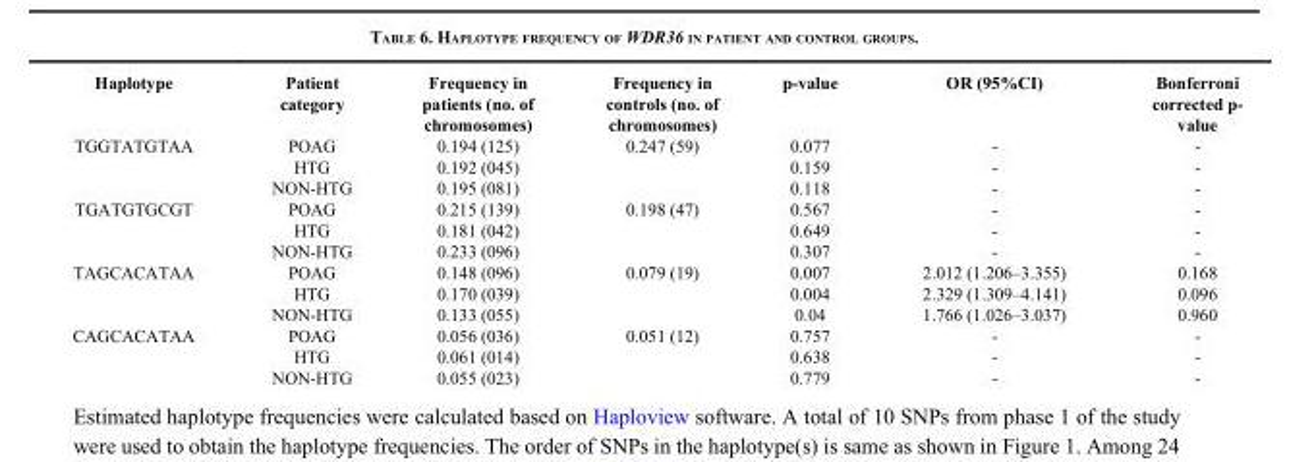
<table><thead><tr><td>Haplotype</td><td>Patient category</td><td>Frequency in patients (no. of chromosomes)</td><td>Frequency in controls (no. of chromosomes)</td><td>p-value</td><td>OR (95%CI)</td><td>Bonferroni corrected p- value</td></tr></thead><tbody><tr><td rowspan="3">TGGTATGTAA</td><td>POAG</td><td>0.194 (125)</td><td>0.247 (59)</td><td>0.077</td><td>-</td><td>-</td></tr><tr><td>HTG</td><td>0.192 (045)</td><td></td><td>0.159</td><td>-</td><td>-</td></tr><tr><td>NON-HTG</td><td>0.195 (081)</td><td></td><td>0.118</td><td>-</td><td>-</td></tr><tr><td rowspan="3">TGATGTGCGT</td><td>POAG</td><td>0.215 (139)</td><td>0.198 (47)</td><td>0.567</td><td>-</td><td>-</td></tr><tr><td>HTG</td><td>0.181 (042)</td><td></td><td>0.649</td><td>-</td><td>-</td></tr><tr><td>NON-HTG</td><td>0.233 (096)</td><td></td><td>0.307</td><td>-</td><td>-</td></tr><tr><td rowspan="3">TAGCACATAA</td><td>POAG</td><td>0.148 (096)</td><td>0.079 (19)</td><td>0.007</td><td>2.012 (1.206–3.355)</td><td>0.168</td></tr><tr><td>HTG</td><td>0.170 (039)</td><td></td><td>0.004</td><td>2.329 (1.309–4.141)</td><td>0.096</td></tr><tr><td>NON-HTG</td><td>0.133 (055)</td><td></td><td>0.04</td><td>1.766 (1.026–3.037)</td><td>0.960</td></tr><tr><td rowspan="3">CAGCACATAA</td><td>POAG</td><td>0.056 (036)</td><td>0.051 (12)</td><td>0.757</td><td>-</td><td>-</td></tr><tr><td>HTG</td><td>0.061 (014)</td><td></td><td>0.638</td><td>-</td><td>-</td></tr><tr><td>NON-HTG</td><td>0.055 (023)</td><td></td><td>0.779</td><td>-</td><td>-</td></tr></tbody></table>